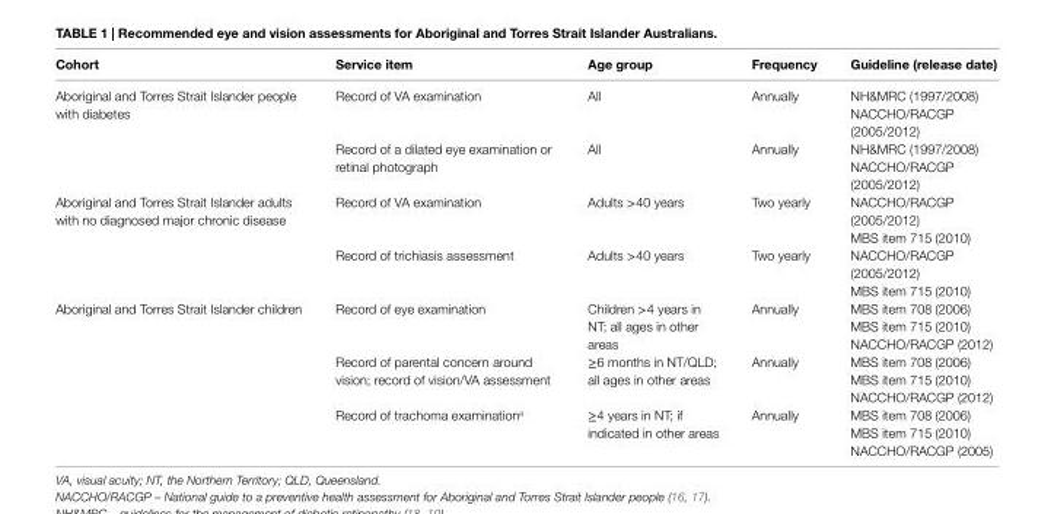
<table><thead><tr><td>cohort</td><td>service item</td><td>age group</td><td>Frequency</td><td>guideline (release date)</td></tr></thead><tbody><tr><td rowspan="4">Aboriginal and Torres Strait Islander people with diabetes</td><td rowspan="2">Record of VA examination</td><td rowspan="2">All</td><td rowspan="2">Annually</td><td>NH&amp;MRC (1997/2008)</td></tr><tr><td>NACCHO/RACGP (2005/2012)</td></tr><tr><td rowspan="2">Record of a dilated eye examination or retinal photograph</td><td rowspan="2">All</td><td rowspan="2">Annually</td><td>NH&amp;MRC (1997/2008)</td></tr><tr><td>NACCHO/RACGP (2005/2012)</td></tr><tr><td rowspan="4">Aboriginal and Torres Strait Islander adults with no diagnosed major chronic disease</td><td rowspan="2">Record of VA examination</td><td rowspan="2">Adults &gt;40 years</td><td rowspan="2">Two yearly</td><td>NACCHO/RACGP (2005/2012)</td></tr><tr><td>MBS item 715 (2010)</td></tr><tr><td rowspan="2">Record of trichiasis assessment</td><td rowspan="2">Adults &gt;40 years</td><td rowspan="2">Two yearly</td><td>NACCHO/RACGP (2005/2012)</td></tr><tr><td>MBS item 715 (2010)</td></tr><tr><td rowspan="9">Aboriginal and Torres Strait Islander children</td><td rowspan="3">Record of eye examination</td><td rowspan="3">Children &gt;4 years in NT; all ages in other areas</td><td rowspan="3">Annually</td><td>MBS item 708 (2006)</td></tr><tr><td>MBS item 715 (2010)</td></tr><tr><td>NACCHO/RACGP (2012)</td></tr><tr><td rowspan="3">Record of parental concern around vision; record of vision/VA assessment</td><td rowspan="3">≥6 months in NT/QLD; all ages in other areas</td><td rowspan="3">Annually</td><td>MBS item 708 (2006)</td></tr><tr><td>MBS item 715 (2010)</td></tr><tr><td>NACCHO/RACGP (2012)</td></tr><tr><td rowspan="3">Record of trachoma examination<sup>a</sup></td><td rowspan="3">≥4 years in NT; if indicated in other areas</td><td rowspan="3">Annually</td><td>MBS item 708 (2006)</td></tr><tr><td>MBS item 715 (2010)</td></tr><tr><td>NACCHO/RACGP (2005)</td></tr></tbody></table>